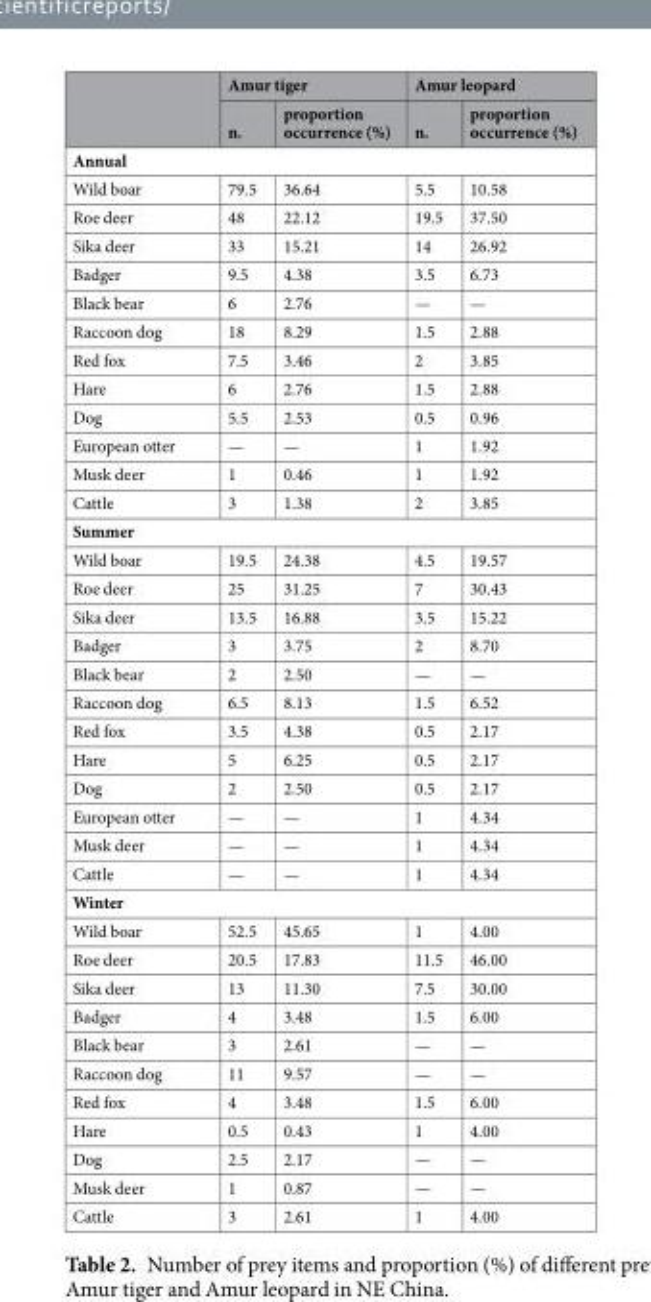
<table><thead><tr><td rowspan="2"></td><td colspan="2">Amur tiger</td><td colspan="2">Amur leopard</td></tr><tr><td>n.</td><td>proportion occurrence (%)</td><td>n.</td><td>proportion occurrence (%)</td></tr></thead><tbody><tr><td colspan="5">Annual</td></tr><tr><td>Wild boar</td><td>79.5</td><td>36.64</td><td>5.5</td><td>10.58</td></tr><tr><td>Roe deer</td><td>48</td><td>22.12</td><td>19.5</td><td>37.50</td></tr><tr><td>Sika deer</td><td>33</td><td>15.21</td><td>14</td><td>26.92</td></tr><tr><td>Badger</td><td>9.5</td><td>4.38</td><td>3.5</td><td>6.73</td></tr><tr><td>Black bear</td><td>6</td><td>2.76</td><td>—</td><td>—</td></tr><tr><td>Raccoon dog</td><td>18</td><td>8.29</td><td>1.5</td><td>2.88</td></tr><tr><td>Red fox</td><td>7.5</td><td>3.46</td><td>2</td><td>3.85</td></tr><tr><td>Hare</td><td>6</td><td>2.76</td><td>1.5</td><td>2.88</td></tr><tr><td>Dog</td><td>5.5</td><td>2.53</td><td>0.5</td><td>0.96</td></tr><tr><td>European otter</td><td>—</td><td>—</td><td>1</td><td>1.92</td></tr><tr><td>Musk deer</td><td>1</td><td>0.46</td><td>1</td><td>1.92</td></tr><tr><td>Cattle</td><td>3</td><td>1.38</td><td>2</td><td>3.85</td></tr><tr><td colspan="5">Summer</td></tr><tr><td>Wild boar</td><td>19.5</td><td>24.38</td><td>4.5</td><td>19.57</td></tr><tr><td>Roe deer</td><td>25</td><td>31.25</td><td>7</td><td>30.43</td></tr><tr><td>Sika deer</td><td>13.5</td><td>16.88</td><td>3.5</td><td>15.22</td></tr><tr><td>Badger</td><td>3</td><td>3.75</td><td>2</td><td>8.70</td></tr><tr><td>Black bear</td><td>2</td><td>2.50</td><td>—</td><td>—</td></tr><tr><td>Raccoon dog</td><td>6.5</td><td>8.13</td><td>1.5</td><td>6.52</td></tr><tr><td>Red fox</td><td>3.5</td><td>4.38</td><td>0.5</td><td>2.17</td></tr><tr><td>Hare</td><td>5</td><td>6.25</td><td>0.5</td><td>2.17</td></tr><tr><td>Dog</td><td>2</td><td>2.50</td><td>0.5</td><td>2.17</td></tr><tr><td>European otter</td><td>—</td><td>—</td><td>1</td><td>4.34</td></tr><tr><td>Musk deer</td><td>—</td><td>—</td><td>1</td><td>4.34</td></tr><tr><td>Cattle</td><td>—</td><td>—</td><td>1</td><td>4.34</td></tr><tr><td colspan="5">Winter</td></tr><tr><td>Wild boar</td><td>52.5</td><td>45.65</td><td>1</td><td>4.00</td></tr><tr><td>Roe deer</td><td>20.5</td><td>17.83</td><td>11.5</td><td>46.00</td></tr><tr><td>Sika deer</td><td>13</td><td>11.30</td><td>7.5</td><td>30.00</td></tr><tr><td>Badger</td><td>4</td><td>3.48</td><td>1.5</td><td>6.00</td></tr><tr><td>Black bear</td><td>3</td><td>2.61</td><td>—</td><td>—</td></tr><tr><td>Raccoon dog</td><td>11</td><td>9.57</td><td>—</td><td>—</td></tr><tr><td>Red fox</td><td>4</td><td>3.48</td><td>1.5</td><td>6.00</td></tr><tr><td>Hare</td><td>0.5</td><td>0.43</td><td>1</td><td>4.00</td></tr><tr><td>Dog</td><td>2.5</td><td>2.17</td><td>—</td><td>—</td></tr><tr><td>Musk deer</td><td>1</td><td>0.87</td><td>—</td><td>—</td></tr><tr><td>Cattle</td><td>3</td><td>2.61</td><td>1</td><td>4.00</td></tr></tbody></table>